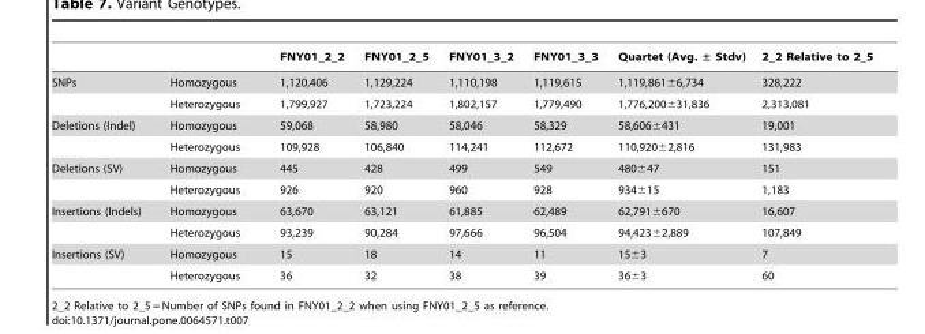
<table><thead><tr><td></td><td></td><td>FNY01_2_2</td><td>FNY01_2_5</td><td>FNY01_3_2</td><td>FNY01_3_3</td><td>Quartet (Avg. ± Stdv)</td><td>2_2 Relative to 2_5</td></tr></thead><tbody><tr><td rowspan="2">SNPs</td><td>Homozygous</td><td>1,120,406</td><td>1,129,224</td><td>1,110,198</td><td>1,119,615</td><td>1,119,861±6,734</td><td>328,222</td></tr><tr><td>Heterozygous</td><td>1,799,927</td><td>1,723,224</td><td>1,802,157</td><td>1,779,490</td><td>1,776,200±31,836</td><td>2,313,081</td></tr><tr><td rowspan="2">Deletions (Indel)</td><td>Homozygous</td><td>59,068</td><td>58,980</td><td>58,046</td><td>58,329</td><td>58,606±431</td><td>19,001</td></tr><tr><td>Heterozygous</td><td>109,928</td><td>106,840</td><td>114,241</td><td>112,672</td><td>110,920±2,816</td><td>131,983</td></tr><tr><td rowspan="2">Deletions (SV)</td><td>Homozygous</td><td>445</td><td>428</td><td>499</td><td>549</td><td>480±47</td><td>151</td></tr><tr><td>Heterozygous</td><td>926</td><td>920</td><td>960</td><td>928</td><td>934±15</td><td>1,183</td></tr><tr><td rowspan="2">Insertions (Indels)</td><td>Homozygous</td><td>63,670</td><td>63,121</td><td>61,885</td><td>62,489</td><td>62,791±670</td><td>16,607</td></tr><tr><td>Heterozygous</td><td>93,239</td><td>90,284</td><td>97,666</td><td>96,504</td><td>94,423±2,889</td><td>107,849</td></tr><tr><td rowspan="2">Insertions (SV)</td><td>Homozygous</td><td>15</td><td>18</td><td>14</td><td>11</td><td>15±3</td><td>7</td></tr><tr><td>Heterozygous</td><td>36</td><td>32</td><td>38</td><td>39</td><td>36±3</td><td>60</td></tr></tbody></table>